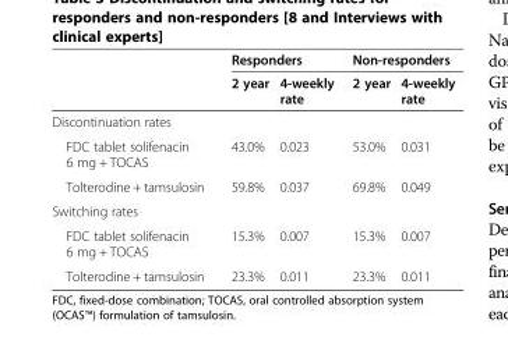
<table><thead><tr><td rowspan="2"></td><td colspan="2">Responders</td><td colspan="2">Non-responders</td></tr><tr><td>2 year</td><td>4-weekly rate</td><td>2 year</td><td>4-weekly rate</td></tr></thead><tbody><tr><td colspan="5">Discontinuation rates</td></tr><tr><td>FDC tablet solifenacin 6 mg + TOCAS</td><td>43.0%</td><td>0.023</td><td>53.0%</td><td>0.031</td></tr><tr><td>Tolterodine + tamsulosin</td><td>59.8%</td><td>0.037</td><td>69.8%</td><td>0.049</td></tr><tr><td colspan="5">Switching rates</td></tr><tr><td>FDC tablet solifenacin 6 mg + TOCAS</td><td>15.3%</td><td>0.007</td><td>15.3%</td><td>0.007</td></tr><tr><td>Tolterodine + tamsulosin</td><td>23.3%</td><td>0.011</td><td>23.3%</td><td>0.011</td></tr></tbody></table>